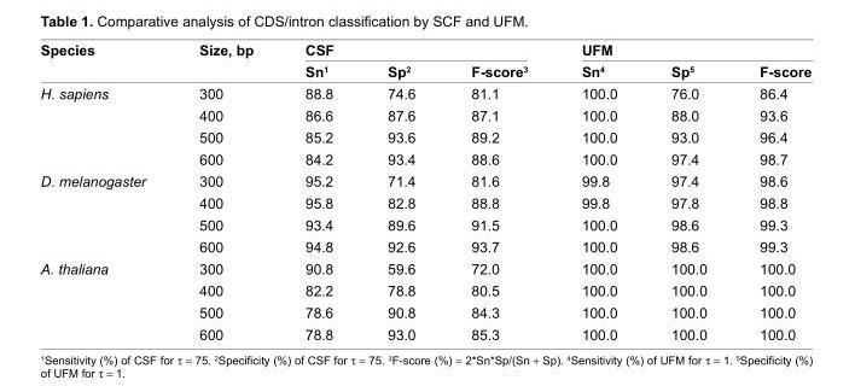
<table><thead><tr><td rowspan="2">species</td><td rowspan="2">size, bp</td><td colspan="3">csF</td><td colspan="3">UFM</td></tr><tr><td>sn<sup>1</sup></td><td>sp<sup>2</sup></td><td>F-score<sup>3</sup></td><td>sn<sup>4</sup></td><td>sp<sup>5</sup></td><td>F-score</td></tr></thead><tbody><tr><td rowspan="4">H. sapiens</td><td>300</td><td>88.8</td><td>74.6</td><td>81.1</td><td>100.0</td><td>76.0</td><td>86.4</td></tr><tr><td>400</td><td>86.6</td><td>87.6</td><td>87.1</td><td>100.0</td><td>88.0</td><td>93.6</td></tr><tr><td>500</td><td>85.2</td><td>93.6</td><td>89.2</td><td>100.0</td><td>93.0</td><td>96.4</td></tr><tr><td>600</td><td>84.2</td><td>93.4</td><td>88.6</td><td>100.0</td><td>97.4</td><td>98.7</td></tr><tr><td rowspan="4">D. melanogaster</td><td>300</td><td>95.2</td><td>71.4</td><td>81.6</td><td>99.8</td><td>97.4</td><td>98.6</td></tr><tr><td>400</td><td>95.8</td><td>82.8</td><td>88.8</td><td>99.8</td><td>97.8</td><td>98.8</td></tr><tr><td>500</td><td>93.4</td><td>89.6</td><td>91.5</td><td>100.0</td><td>98.6</td><td>99.3</td></tr><tr><td>600</td><td>94.8</td><td>92.6</td><td>93.7</td><td>100.0</td><td>98.6</td><td>99.3</td></tr><tr><td rowspan="4">A. thaliana</td><td>300</td><td>90.8</td><td>59.6</td><td>72.0</td><td>100.0</td><td>100.0</td><td>100.0</td></tr><tr><td>400</td><td>82.2</td><td>78.8</td><td>80.5</td><td>100.0</td><td>100.0</td><td>100.0</td></tr><tr><td>500</td><td>78.6</td><td>90.8</td><td>84.3</td><td>100.0</td><td>100.0</td><td>100.0</td></tr><tr><td>600</td><td>78.8</td><td>93.0</td><td>85.3</td><td>100.0</td><td>100.0</td><td>100.0</td></tr></tbody></table>